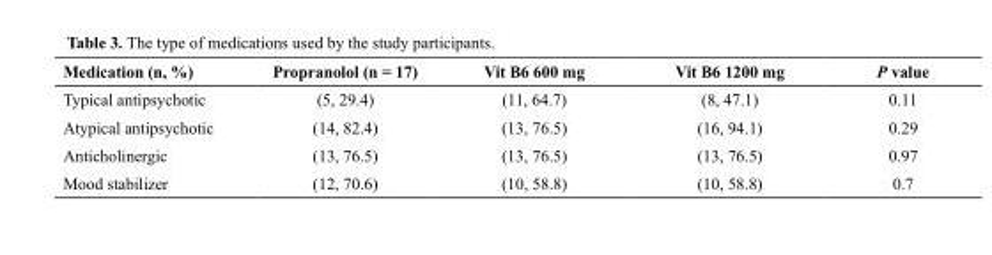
<table><thead><tr><td>Medication (n, %)</td><td>Propranolol (n = 17)</td><td>Vit B6 600 mg Vit B6 1200 mg</td><td>P value</td></tr></thead><tbody><tr><td>Typical antipsychotic</td><td>(5, 29.4)</td><td colspan="2">(11, 64.7) (8, 47.1) 0.11</td></tr><tr><td>Atypical antipsychotic</td><td>(14, 82.4)</td><td>(13, 76.5) (16, 94.1)</td><td>0.29</td></tr><tr><td>Anticholinergic</td><td>(13, 76.5)</td><td>(13, 76.5) (13, 76.5)</td><td>0.97</td></tr><tr><td>Mood stabilizer</td><td>(12, 70.6)</td><td>(10, 58.8) (10, 58.8)</td><td>0.7</td></tr></tbody></table>